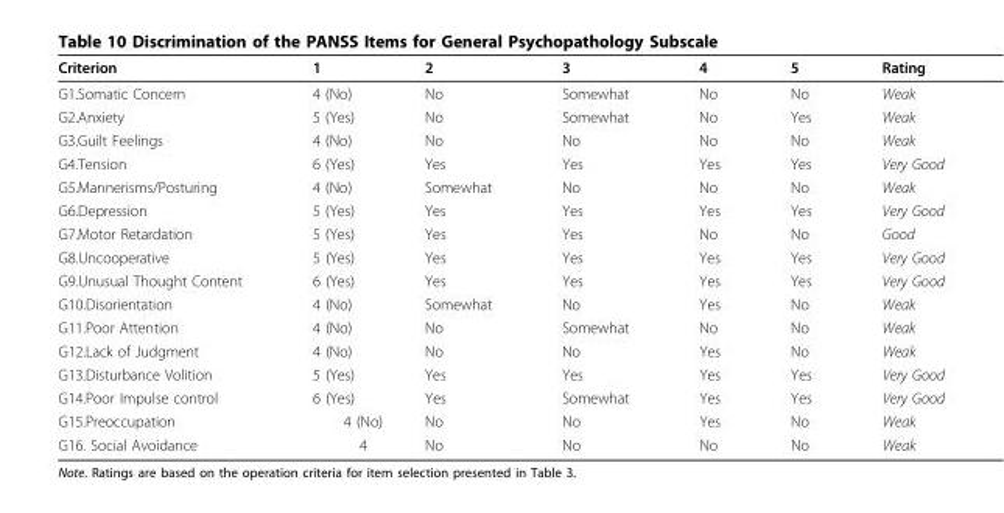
<table><thead><tr><td>Criterion</td><td>1</td><td>2</td><td>3</td><td>4</td><td>5</td><td>Rating</td></tr></thead><tbody><tr><td>G1.Somatic Concern</td><td>4 (No)</td><td>No</td><td>Somewhat</td><td>No</td><td>No</td><td>Weak</td></tr><tr><td>G2.Anxiety</td><td>5 (Yes)</td><td>No</td><td>Somewhat</td><td>No</td><td>Yes</td><td>Weak</td></tr><tr><td>G3.Guilt Feelings</td><td>4 (No)</td><td>No</td><td>No</td><td>No</td><td>No</td><td>Weak</td></tr><tr><td>G4.Tension</td><td>6 (Yes)</td><td>Yes</td><td>Yes</td><td>Yes</td><td>Yes</td><td>Very Good</td></tr><tr><td>G5.Mannerisms/Posturing</td><td>4 (No)</td><td>Somewhat</td><td>No</td><td>No</td><td>No</td><td>Weak</td></tr><tr><td>G6.Depression</td><td>5 (Yes)</td><td>Yes</td><td>Yes</td><td>Yes</td><td>Yes</td><td>Very Good</td></tr><tr><td>G7.Motor Retardation</td><td>5 (Yes)</td><td>Yes</td><td>Yes</td><td>No</td><td>No</td><td>Good</td></tr><tr><td>G8.Uncooperative</td><td>5 (Yes)</td><td>Yes</td><td>Yes</td><td>Yes</td><td>Yes</td><td>Very Good</td></tr><tr><td>G9.Unusual Thought Content</td><td>6 (Yes)</td><td>Yes</td><td>Yes</td><td>Yes</td><td>Yes</td><td>Very Good</td></tr><tr><td>G10.Disorientation</td><td>4 (No)</td><td>Somewhat</td><td>No</td><td>Yes</td><td>No</td><td>Weak</td></tr><tr><td>G11.Poor Attention</td><td>4 (No)</td><td>No</td><td>Somewhat</td><td>No</td><td>No</td><td>Weak</td></tr><tr><td>G12.Lack of Judgment</td><td>4 (No)</td><td>No</td><td>No</td><td>Yes</td><td>No</td><td>Weak</td></tr><tr><td>G13.Disturbance Volition</td><td>5 (Yes)</td><td>Yes</td><td>Yes</td><td>Yes</td><td>Yes</td><td>Very Good</td></tr><tr><td>G14.Poor Impulse control</td><td>6 (Yes)</td><td>Yes</td><td>Somewhat</td><td>Yes</td><td>Yes</td><td>Very Good</td></tr><tr><td>G15.Preoccupation</td><td>4 (No)</td><td>No</td><td>No</td><td>Yes</td><td>No</td><td>Weak</td></tr><tr><td>G16. Social Avoidance</td><td>4</td><td>No</td><td>No</td><td>No</td><td>No</td><td>Weak</td></tr></tbody></table>